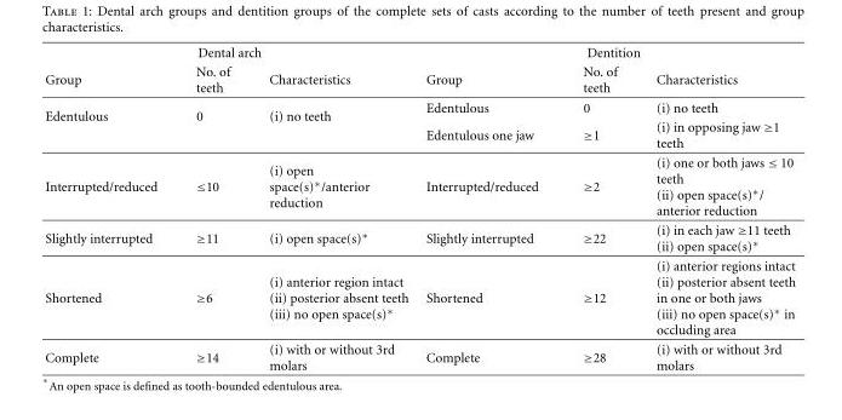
<table><thead><tr><td colspan="3">Dental arch</td><td colspan="3">Dentition</td></tr><tr><td>Group</td><td>No. of teeth</td><td>Characteristics</td><td>Group</td><td>No. of teeth</td><td>Characteristics</td></tr></thead><tbody><tr><td rowspan="2">Edentulous</td><td rowspan="2">0</td><td rowspan="2">(i) no teeth</td><td>Edentulous</td><td>0</td><td>(i) no teeth</td></tr><tr><td>Edentulous one jaw</td><td>≥1</td><td>(i) in opposing jaw ≥1 teeth</td></tr><tr><td>Interrupted/reduced</td><td>≤10</td><td>(i) open space(s)∗/anterior reduction</td><td>Interrupted/reduced</td><td>≥2</td><td>(i) one or both jaws ≤ 10 teeth (ii) open space(s)∗/ anterior reduction</td></tr><tr><td>Slightly interrupted</td><td>≥11</td><td>(i) open space(s)∗</td><td>Slightly interrupted</td><td>≥22</td><td>(i) in each jaw ≥11 teeth (ii) open space(s)∗</td></tr><tr><td>Shortened</td><td>≥6</td><td>(i) anterior region intact (ii) posterior absent teeth (iii) no open space(s)∗</td><td>Shortened</td><td>≥12</td><td>(i) anterior regions intact (ii) posterior absent teeth in one or both jaws (iii) no open space(s)∗ in occluding area</td></tr><tr><td>Complete</td><td>≥14</td><td>(i) with or without 3rd molars</td><td>Complete</td><td>≥28</td><td>(i) with or without 3rd molars</td></tr></tbody></table>